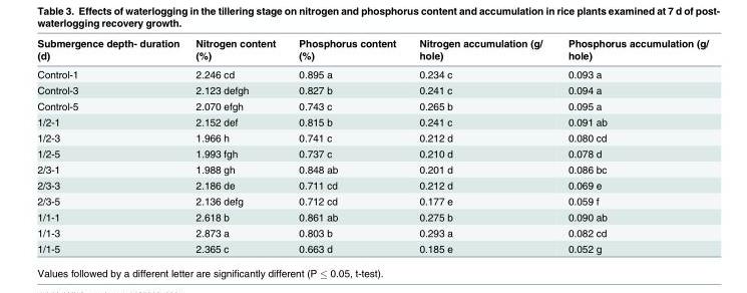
<table><thead><tr><td>Submergence depth- duration (d)</td><td>Nitrogen content (%)</td><td>Phosphorus content (%)</td><td>Nitrogen accumulation (g/ hole)</td><td>Phosphorus accumulation (g/ hole)</td></tr></thead><tbody><tr><td>Control-1</td><td>2.246 cd</td><td>0.895 a</td><td>0.234 c</td><td>0.093 a</td></tr><tr><td>Control-3</td><td>2.123 defgh</td><td>0.827 b</td><td>0.241 c</td><td>0.094 a</td></tr><tr><td>Control-5</td><td>2.070 efgh</td><td>0.743 c</td><td>0.265 b</td><td>0.095 a</td></tr><tr><td>1/2-1</td><td>2.152 def</td><td>0.815 b</td><td>0.241 c</td><td>0.091 ab</td></tr><tr><td>1/2-3</td><td>1.966 h</td><td>0.741 c</td><td>0.212 d</td><td>0.080 cd</td></tr><tr><td>1/2-5</td><td>1.993 fgh</td><td>0.737 c</td><td>0.210 d</td><td>0.078 d</td></tr><tr><td>2/3-1</td><td>1.988 gh</td><td>0.848 ab</td><td>0.201 d</td><td>0.086 bc</td></tr><tr><td>2/3-3</td><td>2.186 de</td><td>0.711 cd</td><td>0.212 d</td><td>0.069 e</td></tr><tr><td>2/3-5</td><td>2.136 defg</td><td>0.712 cd</td><td>0.177 e</td><td>0.059 f</td></tr><tr><td>1/1-1</td><td>2.618 b</td><td>0.861 ab</td><td>0.275 b</td><td>0.090 ab</td></tr><tr><td>1/1-3</td><td>2.873 a</td><td>0.803 b</td><td>0.293 a</td><td>0.082 cd</td></tr><tr><td>1/1-5</td><td>2.365 c</td><td>0.663 d</td><td>0.185 e</td><td>0.052 g</td></tr></tbody></table>